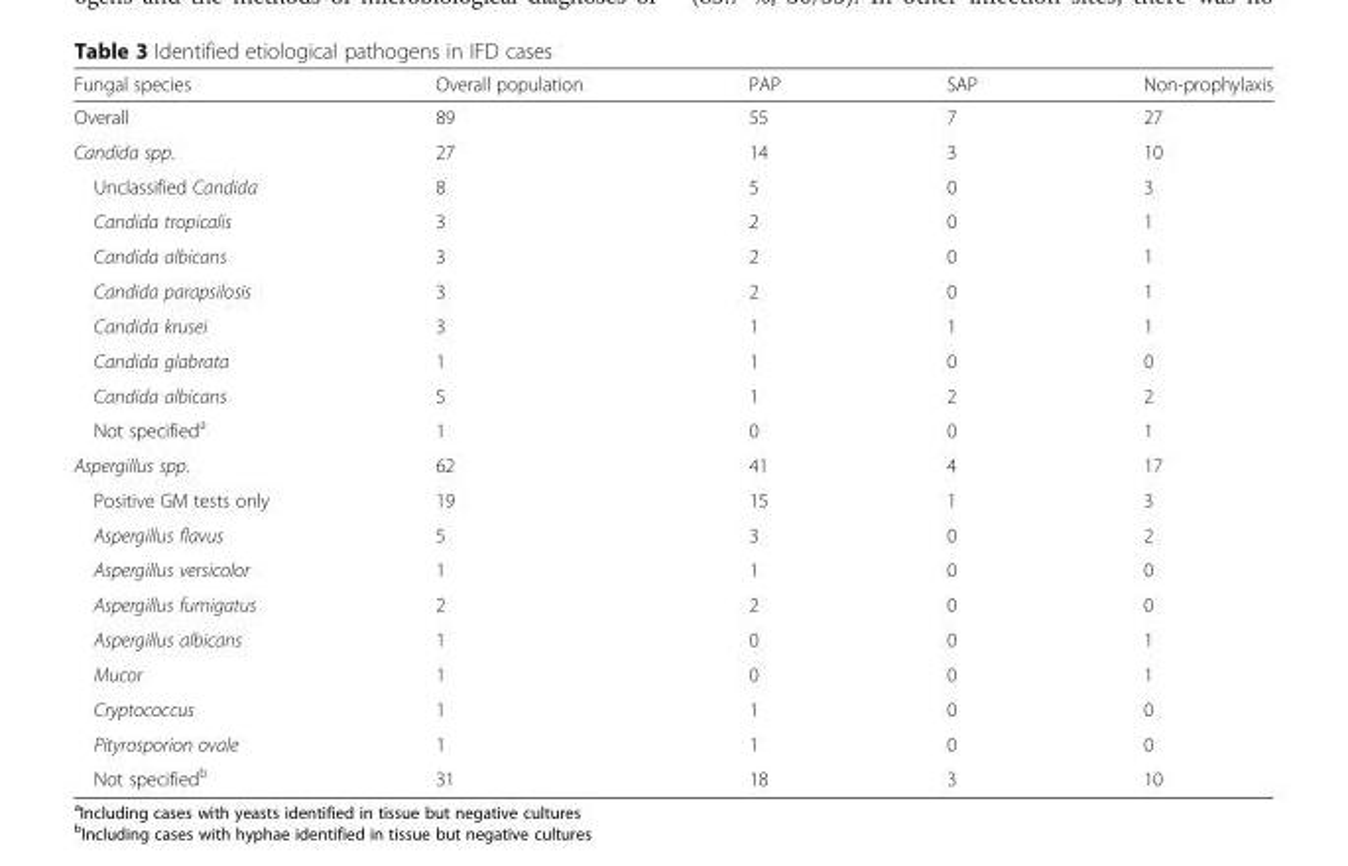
<table><thead><tr><td>Fungal species</td><td>Overall population</td><td>PAP</td><td>SAP</td><td>Non-prophylaxis</td></tr></thead><tbody><tr><td>Overall</td><td>89</td><td>55</td><td>7</td><td>27</td></tr><tr><td>Candida spp.</td><td>27</td><td>14</td><td>3</td><td>10</td></tr><tr><td>Unclassified Candida</td><td>8</td><td>5</td><td>0</td><td>3</td></tr><tr><td>Candida tropicalis</td><td>3</td><td>2</td><td>0</td><td>1</td></tr><tr><td>Candida albicans</td><td>3</td><td>2</td><td>0</td><td>1</td></tr><tr><td>Candida parapsilosis</td><td>3</td><td>2</td><td>0</td><td>1</td></tr><tr><td>Candida krusei</td><td>3</td><td>1</td><td>1</td><td>1</td></tr><tr><td>Candida glabrata</td><td>1</td><td>1</td><td>0</td><td>0</td></tr><tr><td>Candida albicans</td><td>5</td><td>1</td><td>2</td><td>2</td></tr><tr><td>Not specified<sup>a</sup></td><td>1</td><td>0</td><td>0</td><td>1</td></tr><tr><td>Aspergillus spp.</td><td>62</td><td>41</td><td>4</td><td>17</td></tr><tr><td>Positive GM tests only</td><td>19</td><td>15</td><td>1</td><td>3</td></tr><tr><td>Aspergillus flavus</td><td>5</td><td>3</td><td>0</td><td>2</td></tr><tr><td>Aspergillus versicolor</td><td>1</td><td>1</td><td>0</td><td>0</td></tr><tr><td>Aspergillus fumigatus</td><td>2</td><td>2</td><td>0</td><td>0</td></tr><tr><td>Aspergillus albicans</td><td>1</td><td>0</td><td>0</td><td>1</td></tr><tr><td>Mucor</td><td>1</td><td>0</td><td>0</td><td>1</td></tr><tr><td>Cryptococcus</td><td>1</td><td>1</td><td>0</td><td>0</td></tr><tr><td>Pityrosporion ovale</td><td>1</td><td>1</td><td>0</td><td>0</td></tr><tr><td>Not specified<sup>b</sup></td><td>31</td><td>18</td><td>3</td><td>10</td></tr></tbody></table>